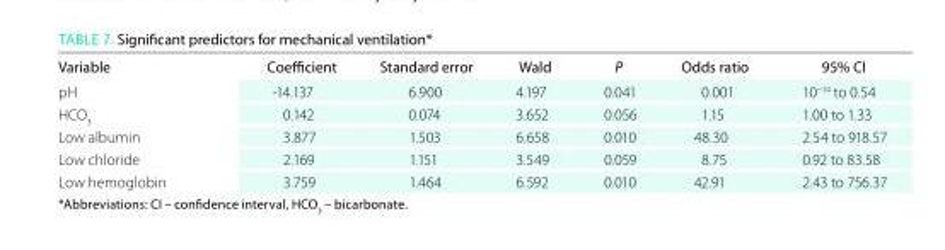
<table><thead><tr><td>Variable</td><td>Coefficient</td><td>Standard error</td><td>Wald</td><td>P</td><td>Odds ratio</td><td>95% CI</td></tr></thead><tbody><tr><td>pH</td><td>-14.137</td><td>6.900</td><td>4.197</td><td>0.041</td><td>0.001</td><td>10<sup>−14</sup> to 0.54</td></tr><tr><td>HCO<sub>3</sub></td><td>0.142</td><td>0.074</td><td>3.652</td><td>0.056</td><td>1.15</td><td>1.00 to 1.33</td></tr><tr><td>Low albumin</td><td>3.877</td><td>1.503</td><td>6.658</td><td>0.010</td><td>48.30</td><td>2.54 to 918.57</td></tr><tr><td>Low chloride</td><td>2.169</td><td>1.151</td><td>3.549</td><td>0.059</td><td>8.75</td><td>0.92 to 83.58</td></tr><tr><td>Low hemoglobin</td><td>3.759</td><td>1.464</td><td>6.592</td><td>0.010</td><td>42.91</td><td>2.43 to 756.37</td></tr></tbody></table>